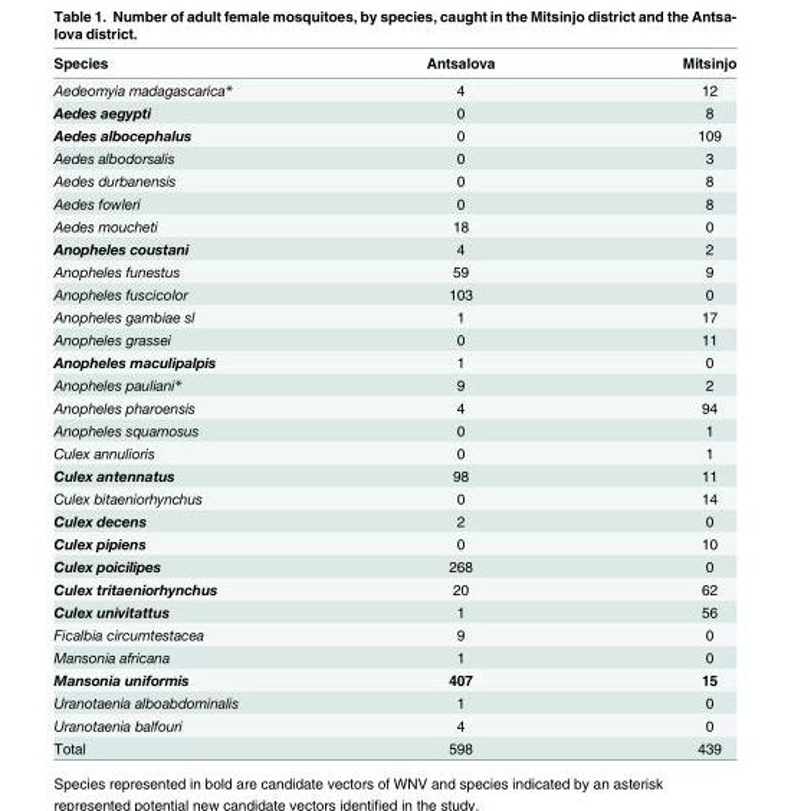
<table><thead><tr><td>Species</td><td>Antsalova</td><td>Mitsinjo</td></tr></thead><tbody><tr><td>Aedeomyia madagascarica*</td><td>4</td><td>12</td></tr><tr><td>Aedes aegypti</td><td>0</td><td>8</td></tr><tr><td>Aedes albocephalus</td><td>0</td><td>109</td></tr><tr><td>Aedes albodorsalis</td><td>0</td><td>3</td></tr><tr><td>Aedes durbanensis</td><td>0</td><td>8</td></tr><tr><td>Aedes fowleri</td><td>0</td><td>8</td></tr><tr><td>Aedes moucheti</td><td>18</td><td>0</td></tr><tr><td>Anopheles coustani</td><td>4</td><td>2</td></tr><tr><td>Anopheles funestus</td><td>59</td><td>9</td></tr><tr><td>Anopheles fuscicolor</td><td>103</td><td>0</td></tr><tr><td>Anopheles gambiae sl</td><td>1</td><td>17</td></tr><tr><td>Anopheles grassei</td><td>0</td><td>11</td></tr><tr><td>Anopheles maculipalpis</td><td>1</td><td>0</td></tr><tr><td>Anopheles pauliani*</td><td>9</td><td>2</td></tr><tr><td>Anopheles pharoensis</td><td>4</td><td>94</td></tr><tr><td>Anopheles squamosus</td><td>0</td><td>1</td></tr><tr><td>Culex annulioris</td><td>0</td><td>1</td></tr><tr><td>Culex antennatus</td><td>98</td><td>11</td></tr><tr><td>Culex bitaeniorhynchus</td><td>0</td><td>14</td></tr><tr><td>Culex decens</td><td>2</td><td>0</td></tr><tr><td>Culex pipiens</td><td>0</td><td>10</td></tr><tr><td>Culex poicilipes</td><td>268</td><td>0</td></tr><tr><td>Culex tritaeniorhynchus</td><td>20</td><td>62</td></tr><tr><td>Culex univitattus</td><td>1</td><td>56</td></tr><tr><td>Ficalbia circumtestacea</td><td>9</td><td>0</td></tr><tr><td>Mansonia africana</td><td>1</td><td>0</td></tr><tr><td>Mansonia uniformis</td><td>407</td><td>15</td></tr><tr><td>Uranotaenia alboabdominalis</td><td>1</td><td>0</td></tr><tr><td>Uranotaenia balfouri</td><td>4</td><td>0</td></tr><tr><td>Total</td><td>598</td><td>439</td></tr></tbody></table>